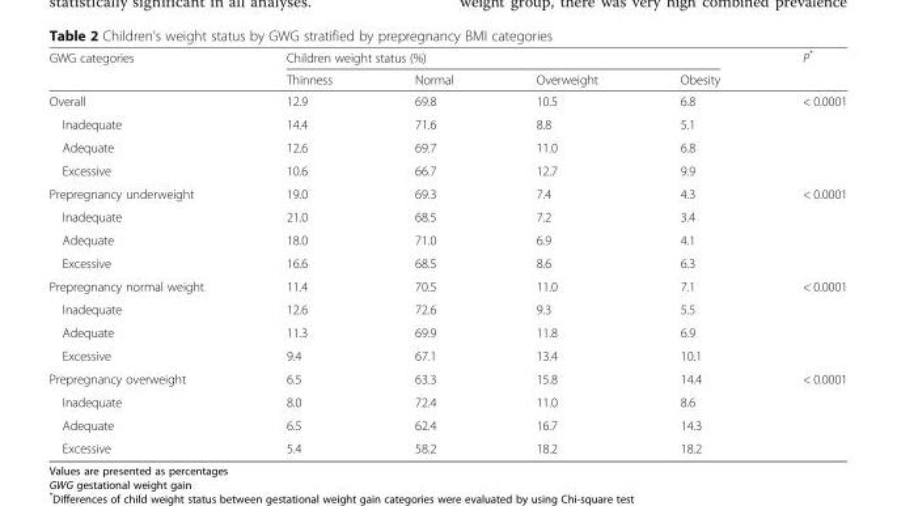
<table><thead><tr><td rowspan="2">GWG categories</td><td colspan="4">Children weight status (%)</td><td rowspan="2">P*</td></tr><tr><td>Thinness</td><td>Normal</td><td>Overweight</td><td>Obesity</td></tr></thead><tbody><tr><td>Overall</td><td>12.9</td><td>69.8</td><td>10.5</td><td>6.8</td><td>&lt; 0.0001</td></tr><tr><td>Inadequate</td><td>14.4</td><td>71.6</td><td>8.8</td><td>5.1</td><td></td></tr><tr><td>Adequate</td><td>12.6</td><td>69.7</td><td>11.0</td><td>6.8</td><td></td></tr><tr><td>Excessive</td><td>10.6</td><td>66.7</td><td>12.7</td><td>9.9</td><td></td></tr><tr><td>Prepregnancy underweight</td><td>19.0</td><td>69.3</td><td>7.4</td><td>4.3</td><td>&lt; 0.0001</td></tr><tr><td>Inadequate</td><td>21.0</td><td>68.5</td><td>7.2</td><td>3.4</td><td></td></tr><tr><td>Adequate</td><td>18.0</td><td>71.0</td><td>6.9</td><td>4.1</td><td></td></tr><tr><td>Excessive</td><td>16.6</td><td>68.5</td><td>8.6</td><td>6.3</td><td></td></tr><tr><td>Prepregnancy normal weight</td><td>11.4</td><td>70.5</td><td>11.0</td><td>7.1</td><td>&lt; 0.0001</td></tr><tr><td>Inadequate</td><td>12.6</td><td>72.6</td><td>9.3</td><td>5.5</td><td></td></tr><tr><td>Adequate</td><td>11.3</td><td>69.9</td><td>11.8</td><td>6.9</td><td></td></tr><tr><td>Excessive</td><td>9.4</td><td>67.1</td><td>13.4</td><td>10.1</td><td></td></tr><tr><td>Prepregnancy overweight</td><td>6.5</td><td>63.3</td><td>15.8</td><td>14.4</td><td>&lt; 0.0001</td></tr><tr><td>Inadequate</td><td>8.0</td><td>72.4</td><td>11.0</td><td>8.6</td><td></td></tr><tr><td>Adequate</td><td>6.5</td><td>62.4</td><td>16.7</td><td>14.3</td><td></td></tr><tr><td>Excessive</td><td>5.4</td><td>58.2</td><td>18.2</td><td>18.2</td><td></td></tr></tbody></table>